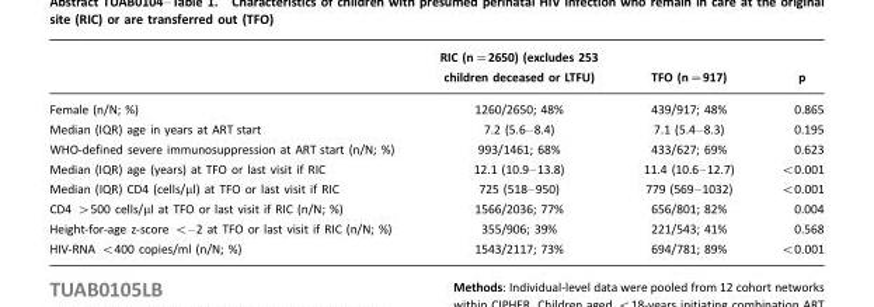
<table><thead><tr><td></td><td>RIC (n=2650) (excludes 253 children deceased or LTFU)</td><td>TFO (n=917)</td><td>p</td></tr></thead><tbody><tr><td>Female (n/N; %)</td><td>1260/2650; 48%</td><td>439/917; 48%</td><td>0.865</td></tr><tr><td>Median (IQR) age in years at ART start</td><td>7.2 (5.6–8.4)</td><td>7.1 (5.4–8.3)</td><td>0.195</td></tr><tr><td>WHO-defined severe immunosuppression at ART start (n/N; %)</td><td>993/1461; 68%</td><td>433/627; 69%</td><td>0.623</td></tr><tr><td>Median (IQR) age (years) at TFO or last visit if RIC</td><td>12.1 (10.9–13.8)</td><td>11.4 (10.6–12.7)</td><td>&lt;0.001</td></tr><tr><td>Median (IQR) CD4 (cells/µl) at TFO or last visit if RIC</td><td>725 (518–950)</td><td>779 (569–1032)</td><td>&lt;0.001</td></tr><tr><td>CD4 &gt;500 cells/µl at TFO or last visit if RIC (n/N; %)</td><td>1566/2036; 77%</td><td>656/801; 82%</td><td>0.004</td></tr><tr><td>Height-for-age z-score &lt;–2 at TFO or last visit if RIC (n/N; %)</td><td>355/906; 39%</td><td>221/543; 41%</td><td>0.568</td></tr><tr><td>HIV-RNA &lt;400 copies/ml (n/N; %)</td><td>1543/2117; 73%</td><td>694/781; 89%</td><td>&lt;0.001</td></tr></tbody></table>